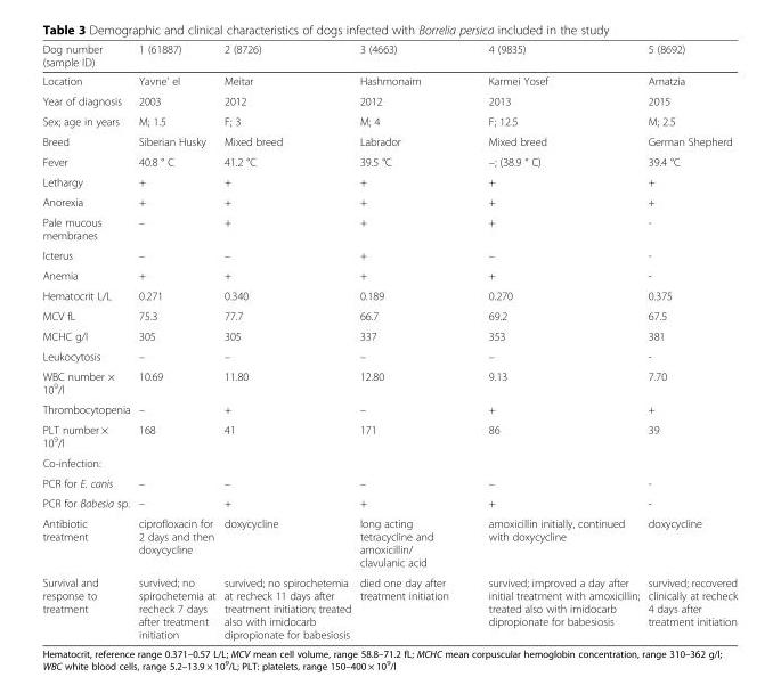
<table><thead><tr><td>Dog number (sample ID)</td><td>1 (61887)</td><td>2 (8726)</td><td>3 (4663)</td><td>4 (9835)</td><td>5 (8692)</td></tr></thead><tbody><tr><td>Location</td><td>Yavne&#x27; el</td><td>Meitar</td><td>Hashmonaim</td><td>Karmei Yosef</td><td>Amatzia</td></tr><tr><td>Year of diagnosis</td><td>2003</td><td>2012</td><td>2012</td><td>2013</td><td>2015</td></tr><tr><td>Sex; age in years</td><td>M; 1.5</td><td>F; 3</td><td>M; 4</td><td>F; 12.5</td><td>M; 2.5</td></tr><tr><td>Breed</td><td>Siberian Husky</td><td>Mixed breed</td><td>Labrador</td><td>Mixed breed</td><td>German Shepherd</td></tr><tr><td>Fever</td><td>40.8 ° C</td><td>41.2 °C</td><td>39.5 °C</td><td>–; (38.9 ° C)</td><td>39.4 °C</td></tr><tr><td>Lethargy</td><td>+</td><td>+</td><td>+</td><td>+</td><td>+</td></tr><tr><td>Anorexia</td><td>+</td><td>+</td><td>+</td><td>+</td><td>+</td></tr><tr><td>Pale mucous membranes</td><td>–</td><td>+</td><td>+</td><td>+</td><td>-</td></tr><tr><td>Icterus</td><td>–</td><td>–</td><td>+</td><td>–</td><td>-</td></tr><tr><td>Anemia</td><td>+</td><td>+</td><td>+</td><td>+</td><td>-</td></tr><tr><td>Hematocrit L/L</td><td>0.271</td><td>0.340</td><td>0.189</td><td>0.270</td><td>0.375</td></tr><tr><td>MCV fL</td><td>75.3</td><td>77.7</td><td>66.7</td><td>69.2</td><td>67.5</td></tr><tr><td>MCHC g/l</td><td>305</td><td>305</td><td>337</td><td>353</td><td>381</td></tr><tr><td>Leukocytosis</td><td>–</td><td>–</td><td>–</td><td>–</td><td>-</td></tr><tr><td>WBC number × 10<sup>9</sup>/l</td><td>10.69</td><td>11.80</td><td>12.80</td><td>9.13</td><td>7.70</td></tr><tr><td>Thrombocytopenia</td><td>–</td><td>+</td><td>–</td><td>+</td><td>+</td></tr><tr><td>PLT number × 10<sup>9</sup>/l</td><td>168</td><td>41</td><td>171</td><td>86</td><td>39</td></tr><tr><td colspan="6">Co-infection:</td></tr><tr><td>PCR for E. canis</td><td>–</td><td>–</td><td>–</td><td>–</td><td>-</td></tr><tr><td>PCR for Babesia sp.</td><td>–</td><td>+</td><td>+</td><td>+</td><td>-</td></tr><tr><td>Antibiotic treatment</td><td>ciprofloxacin for 2 days and then doxycycline</td><td>doxycycline</td><td>long acting tetracycline and amoxicillin/ clavulanic acid</td><td>amoxicillin initially, continued with doxycycline</td><td>doxycycline</td></tr><tr><td>Survival and response to treatment</td><td>survived; no spirochetemia at recheck 7 days after treatment initiation</td><td>survived; no spirochetemia at recheck 11 days after treatment initiation; treated also with imidocarb dipropionate for babesiosis</td><td>died one day after treatment initiation</td><td>survived; improved a day after initial treatment with amoxicillin; treated also with imidocarb dipropionate for babesiosis</td><td>survived; recovered clinically at recheck 4 days after treatment initiation</td></tr></tbody></table>